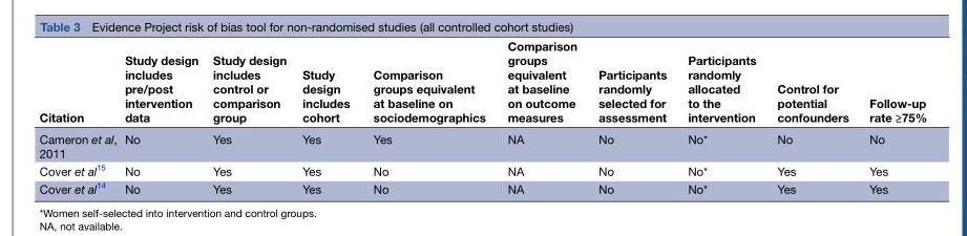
<table><thead><tr><td>Citation</td><td>Study design includes pre/post intervention data</td><td>Study design includes control or comparison group</td><td>Study design includes cohort</td><td>Comparison groups equivalent at baseline on sociodemographics</td><td>Comparison groups equivalent at baseline on outcome measures</td><td>Participants randomly selected for assessment</td><td>Participants randomly allocated to the intervention</td><td>Control for potential confounders</td><td>Follow-up rate ≥75%</td></tr></thead><tbody><tr><td>Cameron et al, 2011</td><td>No</td><td>Yes</td><td>Yes</td><td>Yes</td><td>NA</td><td>No</td><td>No*</td><td>No</td><td>No</td></tr><tr><td>Cover et al15</td><td>No</td><td>Yes</td><td>Yes</td><td>No</td><td>NA</td><td>No</td><td>No*</td><td>Yes</td><td>Yes</td></tr><tr><td>Cover et al14</td><td>No</td><td>Yes</td><td>Yes</td><td>No</td><td>NA</td><td>No</td><td>No*</td><td>Yes</td><td>Yes</td></tr></tbody></table>